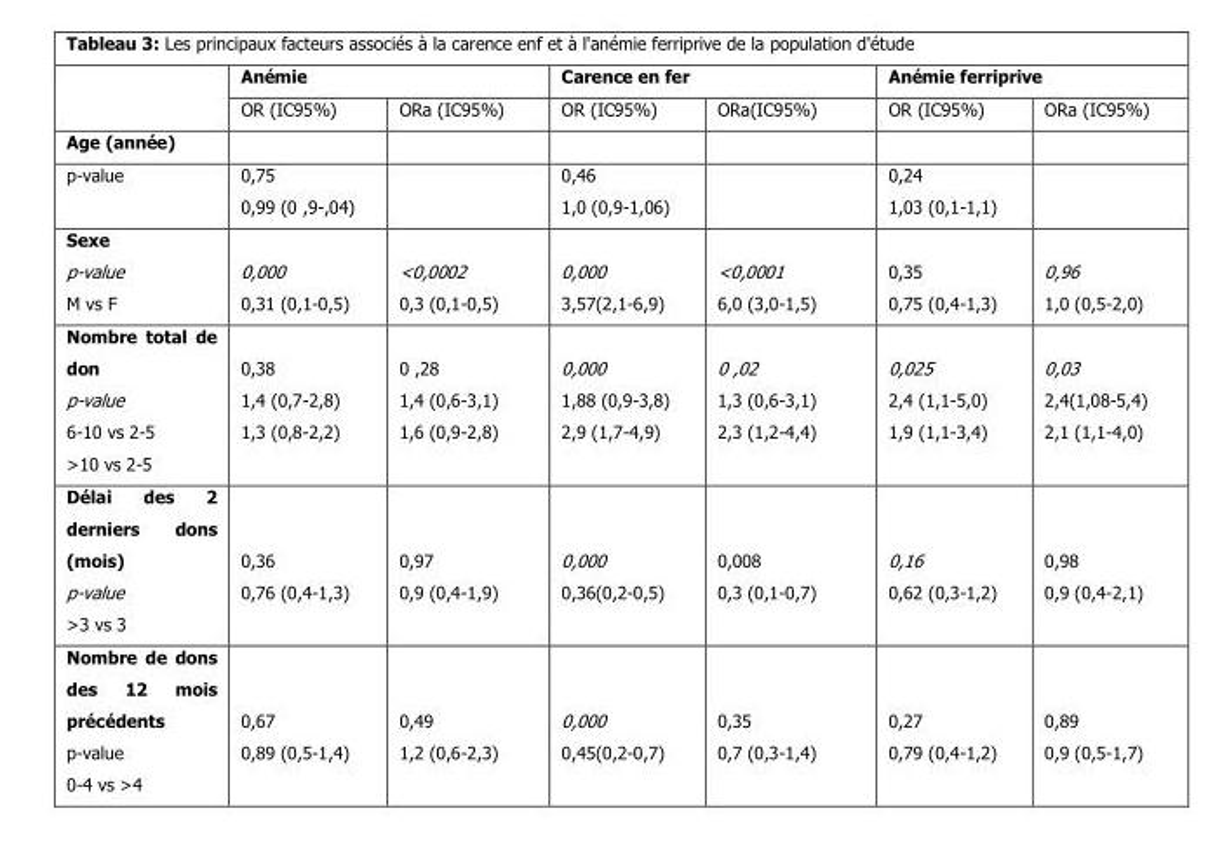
<table><thead><tr><td rowspan="2"></td><td colspan="2">Anémie</td><td colspan="2">Carence en fer</td><td colspan="2">Anémie ferriprive</td></tr><tr><td>OR (IC95%)</td><td>ORa (IC95%)</td><td>OR (IC95%)</td><td>ORa(IC95%)</td><td>OR (IC95%)</td><td>ORa (IC95%)</td></tr></thead><tbody><tr><td colspan="7">Age (année)</td></tr><tr><td>p-value</td><td>0,75 0,99 (0 ,9-,04)</td><td></td><td>0,46 1,0 (0,9-1,06)</td><td></td><td>0,24 1,03 (0,1-1,1)</td><td></td></tr><tr><td>Sexe p-value M vs F</td><td>0,000 0,31 (0,1-0,5)</td><td>&lt;0,0002 0,3 (0,1-0,5)</td><td>0,000 3,57(2,1-6,9)</td><td>&lt;0,0001 6,0 (3,0-1,5)</td><td>0,35 0,75 (0,4-1,3)</td><td>0,96 1,0 (0,5-2,0)</td></tr><tr><td>Nombre total de don p-value 6-10 vs 2-5 &gt;10 vs 2-5</td><td>0,38 1,4 (0,7-2,8) 1,3 (0,8-2,2)</td><td>0 ,28 1,4 (0,6-3,1) 1,6 (0,9-2,8)</td><td>0,000 1,88 (0,9-3,8) 2,9 (1,7-4,9)</td><td>0 ,02 1,3 (0,6-3,1) 2,3 (1,2-4,4)</td><td>0,025 2,4 (1,1-5,0) 1,9 (1,1-3,4)</td><td>0,03 2,4(1,08-5,4) 2,1 (1,1-4,0)</td></tr><tr><td>Délai des 2 derniers dons (mois) p-value &gt;3 vs 3</td><td>0,36 0,76 (0,4-1,3)</td><td>0,97 0,9 (0,4-1,9)</td><td>0,000 0,36(0,2-0,5)</td><td>0,008 0,3 (0,1-0,7)</td><td>0,16 0,62 (0,3-1,2)</td><td>0,98 0,9 (0,4-2,1)</td></tr><tr><td>Nombre de dons des 12 mois précédents p-value 0-4 vs &gt;4</td><td>0,67 0,89 (0,5-1,4)</td><td>0,49 1,2 (0,6-2,3)</td><td>0,000 0,45(0,2-0,7)</td><td>0,35 0,7 (0,3-1,4)</td><td>0,27 0,79 (0,4-1,2)</td><td>0,89 0,9 (0,5-1,7)</td></tr></tbody></table>